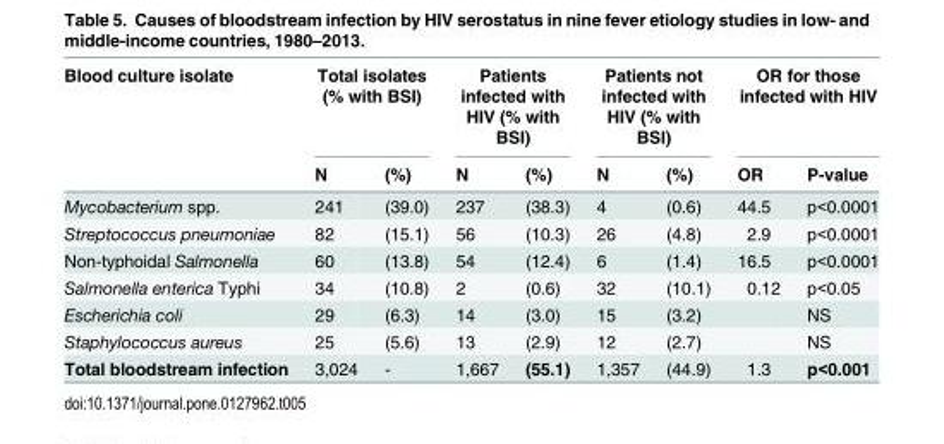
<table><thead><tr><td rowspan="2">Blood culture isolate</td><td colspan="2">Total isolates (% with BSI)</td><td colspan="2">Patients infected with HIV (% with BSI)</td><td colspan="2">Patients not infected with HIV (% with BSI)</td><td colspan="2">OR for those infected with HIV</td></tr><tr><td>N</td><td>(%)</td><td>N</td><td>(%)</td><td>N</td><td>(%)</td><td>OR</td><td>P-value</td></tr></thead><tbody><tr><td>Mycobacterium spp.</td><td>241</td><td>(39.0)</td><td>237</td><td>(38.3)</td><td>4</td><td>(0.6)</td><td>44.5</td><td>p&lt;0.0001</td></tr><tr><td>Streptococcus pneumoniae</td><td>82</td><td>(15.1)</td><td>56</td><td>(10.3)</td><td>26</td><td>(4.8)</td><td>2.9</td><td>p&lt;0.0001</td></tr><tr><td>Non-typhoidal Salmonella</td><td>60</td><td>(13.8)</td><td>54</td><td>(12.4)</td><td>6</td><td>(1.4)</td><td>16.5</td><td>p&lt;0.0001</td></tr><tr><td>Salmonella enterica Typhi</td><td>34</td><td>(10.8)</td><td>2</td><td>(0.6)</td><td>32</td><td>(10.1)</td><td>0.12</td><td>p&lt;0.05</td></tr><tr><td>Escherichia coli</td><td>29</td><td>(6.3)</td><td>14</td><td>(3.0)</td><td>15</td><td>(3.2)</td><td></td><td>NS</td></tr><tr><td>Staphylococcus aureus</td><td>25</td><td>(5.6)</td><td>13</td><td>(2.9)</td><td>12</td><td>(2.7)</td><td></td><td>NS</td></tr><tr><td>Total bloodstream infection</td><td>3,024</td><td>-</td><td>1,667</td><td>(55.1)</td><td>1,357</td><td>(44.9)</td><td>1.3</td><td>p&lt;0.001</td></tr></tbody></table>